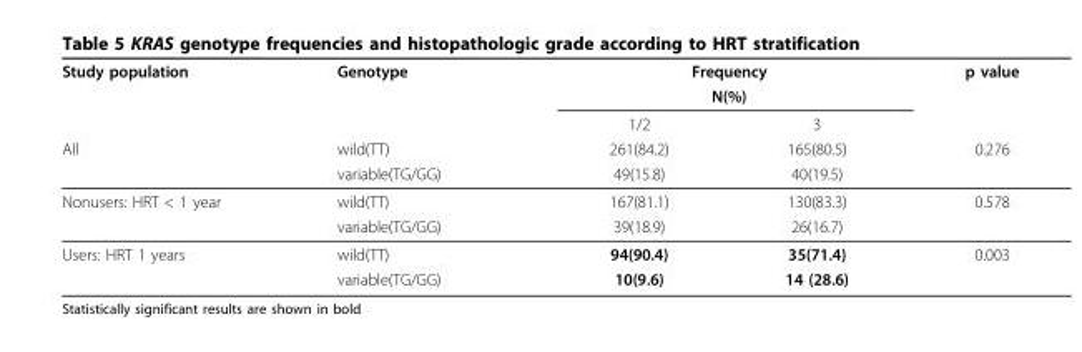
<table><thead><tr><td rowspan="5">Study population All</td><td rowspan="5">Genotype wild(TT) variable(TG/GG)</td><td rowspan="2" colspan="2">Frequency N(%)</td><td rowspan="5">p value 0.276</td></tr><tr></tr><tr><td rowspan="3">1/2 261(84.2) 49(15.8)</td><td rowspan="3">3 165(80.5) 40(19.5)</td></tr><tr></tr><tr></tr></thead><tbody><tr><td rowspan="2">Nonusers: HRT &lt; 1 year</td><td>wild(TT)</td><td>167(81.1)</td><td>130(83.3)</td><td>0.578</td></tr><tr><td>variable(TG/GG)</td><td>39(18.9)</td><td>26(16.7)</td><td></td></tr><tr><td rowspan="2">Users: HRT 1 years</td><td>wild(TT)</td><td>94(90.4)</td><td>35(71.4)</td><td>0.003</td></tr><tr><td>variable(TG/GG)</td><td>10(9.6)</td><td>14 (28.6)</td><td></td></tr></tbody></table>